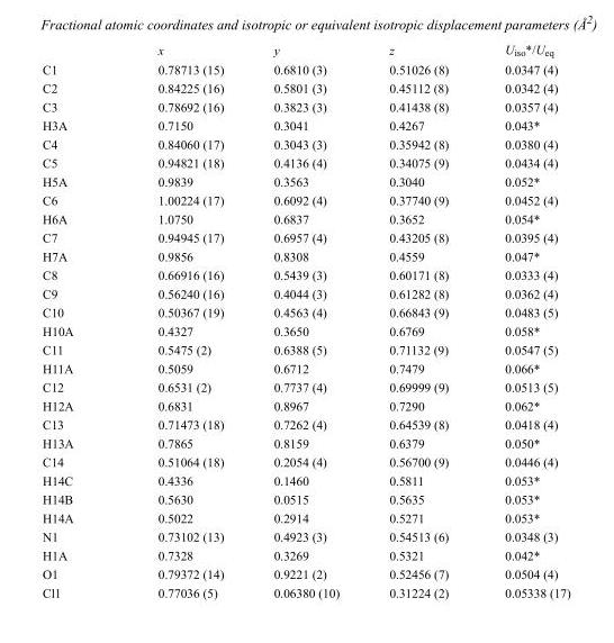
<table><thead><tr><td></td><td>x</td><td>y</td><td>z</td><td>U<sub>iso</sub>*/U<sub>eq</sub></td></tr></thead><tbody><tr><td>C1</td><td>0.78713 (15)</td><td>0.6810 (3)</td><td>0.51026 (8)</td><td>0.0347 (4)</td></tr><tr><td>C2</td><td>0.84225 (16)</td><td>0.5801 (3)</td><td>0.45112 (8)</td><td>0.0342 (4)</td></tr><tr><td>C3</td><td>0.78692 (16)</td><td>0.3823 (3)</td><td>0.41438 (8)</td><td>0.0357 (4)</td></tr><tr><td>H3A</td><td>0.7150</td><td>0.3041</td><td>0.4267</td><td>0.043*</td></tr><tr><td>C4</td><td>0.84060 (17)</td><td>0.3043 (3)</td><td>0.35942 (8)</td><td>0.0380 (4)</td></tr><tr><td>C5</td><td>0.94821 (18)</td><td>0.4136 (4)</td><td>0.34075 (9)</td><td>0.0434 (4)</td></tr><tr><td>H5A</td><td>0.9839</td><td>0.3563</td><td>0.3040</td><td>0.052*</td></tr><tr><td>C6</td><td>1.00224 (17)</td><td>0.6092 (4)</td><td>0.37740 (9)</td><td>0.0452 (4)</td></tr><tr><td>H6A</td><td>1.0750</td><td>0.6837</td><td>0.3652</td><td>0.054*</td></tr><tr><td>C7</td><td>0.94945 (17)</td><td>0.6957 (4)</td><td>0.43205 (8)</td><td>0.0395 (4)</td></tr><tr><td>H7A</td><td>0.9856</td><td>0.8308</td><td>0.4559</td><td>0.047*</td></tr><tr><td>C8</td><td>0.66916 (16)</td><td>0.5439 (3)</td><td>0.60171 (8)</td><td>0.0333 (4)</td></tr><tr><td>C9</td><td>0.56240 (16)</td><td>0.4044 (3)</td><td>0.61282 (8)</td><td>0.0362 (4)</td></tr><tr><td>C10</td><td>0.50367 (19)</td><td>0.4563 (4)</td><td>0.66843 (9)</td><td>0.0483 (5)</td></tr><tr><td>H10A</td><td>0.4327</td><td>0.3650</td><td>0.6769</td><td>0.058*</td></tr><tr><td>C11</td><td>0.5475 (2)</td><td>0.6388 (5)</td><td>0.71132 (9)</td><td>0.0547 (5)</td></tr><tr><td>H11A</td><td>0.5059</td><td>0.6712</td><td>0.7479</td><td>0.066*</td></tr><tr><td>C12</td><td>0.6531 (2)</td><td>0.7737 (4)</td><td>0.69999 (9)</td><td>0.0513 (5)</td></tr><tr><td>H12A</td><td>0.6831</td><td>0.8967</td><td>0.7290</td><td>0.062*</td></tr><tr><td>C13</td><td>0.71473 (18)</td><td>0.7262 (4)</td><td>0.64539 (8)</td><td>0.0418 (4)</td></tr><tr><td>H13A</td><td>0.7865</td><td>0.8159</td><td>0.6379</td><td>0.050*</td></tr><tr><td>C14</td><td>0.51064 (18)</td><td>0.2054 (4)</td><td>0.56700 (9)</td><td>0.0446 (4)</td></tr><tr><td>H14C</td><td>0.4336</td><td>0.1460</td><td>0.5811</td><td>0.053*</td></tr><tr><td>H14B</td><td>0.5630</td><td>0.0515</td><td>0.5635</td><td>0.053*</td></tr><tr><td>H14A</td><td>0.5022</td><td>0.2914</td><td>0.5271</td><td>0.053*</td></tr><tr><td>N1</td><td>0.73102 (13)</td><td>0.4923 (3)</td><td>0.54513 (6)</td><td>0.0348 (3)</td></tr><tr><td>H1A</td><td>0.7328</td><td>0.3269</td><td>0.5321</td><td>0.042*</td></tr><tr><td>O1</td><td>0.79372 (14)</td><td>0.9221 (2)</td><td>0.52456 (7)</td><td>0.0504 (4)</td></tr><tr><td>Cl1</td><td>0.77036 (5)</td><td>0.06380 (10)</td><td>0.31224 (2)</td><td>0.05338 (17)</td></tr></tbody></table>